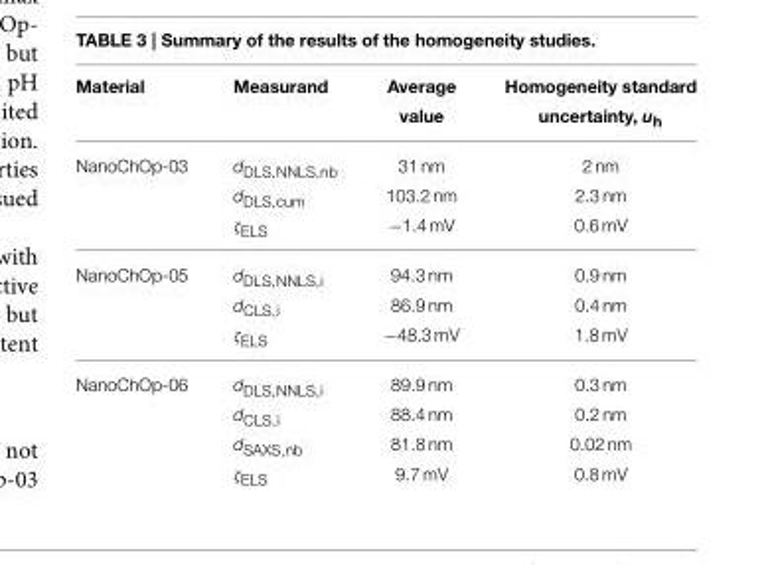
<table><thead><tr><td>Material</td><td>Measurand</td><td>Average value</td><td>Homogeneity standard uncertainty, u<sub>h</sub></td></tr></thead><tbody><tr><td rowspan="3">NanoChOp-03</td><td>d<sub>DLS,NNLS,nb</sub></td><td>31 nm</td><td>2 nm</td></tr><tr><td>d<sub>DLS,cum</sub></td><td>103.2 nm</td><td>2.3 nm</td></tr><tr><td>ζ<sub>ELS</sub></td><td>−1.4 mV</td><td>0.6 mV</td></tr><tr><td rowspan="3">NanoChOp-05</td><td>d<sub>DLS,NNLS,i</sub></td><td>94.3 nm</td><td>0.9 nm</td></tr><tr><td>d<sub>CLS,i</sub></td><td>86.9 nm</td><td>0.4 nm</td></tr><tr><td>ζ<sub>ELS</sub></td><td>−48.3 mV</td><td>1.8 mV</td></tr><tr><td rowspan="4">NanoChOp-06</td><td>d<sub>DLS,NNLS,i</sub></td><td>89.9 nm</td><td>0.3 nm</td></tr><tr><td>d<sub>CLS,i</sub></td><td>88.4 nm</td><td>0.2 nm</td></tr><tr><td>d<sub>SAXS,nb</sub></td><td>81.8 nm</td><td>0.02 nm</td></tr><tr><td>ζ<sub>ELS</sub></td><td>9.7 mV</td><td>0.8 mV</td></tr></tbody></table>